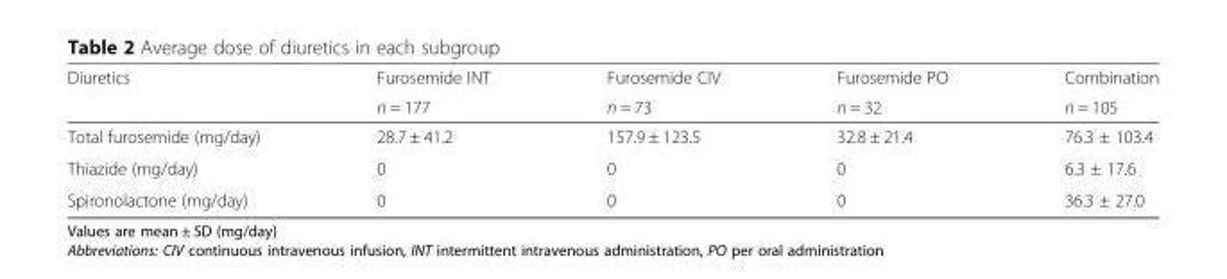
<table><thead><tr><td rowspan="2">Diuretics</td><td rowspan="2">Furosemide INT n = 177</td><td rowspan="2">Furosemide CIV n = 73</td><td rowspan="2">Furosemide PO n = 32</td><td rowspan="2">Combination n = 105</td></tr><tr></tr></thead><tbody><tr><td>Total furosemide (mg/day)</td><td>28.7 ± 41.2</td><td>157.9 ± 123.5</td><td>32.8 ± 21.4</td><td>76.3 ± 103.4</td></tr><tr><td>Thiazide (mg/day)</td><td>0</td><td>0</td><td>0</td><td>6.3 ± 17.6</td></tr><tr><td>Spironolactone (mg/day)</td><td>0</td><td>0</td><td>0</td><td>36.3 ± 27.0</td></tr></tbody></table>